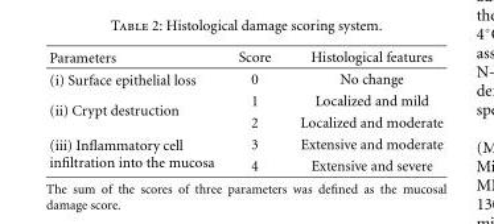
<table><thead><tr><td>Parameters</td><td>Score</td><td>Histological features</td></tr></thead><tbody><tr><td>(i) Surface epithelial loss</td><td>0</td><td>No change</td></tr><tr><td rowspan="2">(ii) Crypt destruction</td><td>1</td><td>Localized and mild</td></tr><tr><td>2</td><td>Localized and moderate</td></tr><tr><td rowspan="2">(iii) Inflammatory cell infiltration into the mucosa</td><td>3</td><td>Extensive and moderate</td></tr><tr><td>4</td><td>Extensive and severe</td></tr></tbody></table>